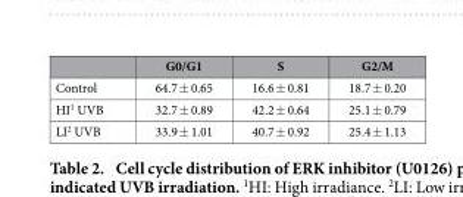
<table><thead><tr><td></td><td>G0/G1</td><td>S</td><td>G2/M</td></tr></thead><tbody><tr><td>Control</td><td>64.7 ± 0.65</td><td>16.6 ± 0.81</td><td>18.7 ± 0.20</td></tr><tr><td>HI<sup>1</sup> UVB</td><td>32.7 ± 0.89</td><td>42.2 ± 0.64</td><td>25.1 ± 0.79</td></tr><tr><td>LI<sup>2</sup> UVB</td><td>33.9 ± 1.01</td><td>40.7 ± 0.92</td><td>25.4 ± 1.13</td></tr></tbody></table>